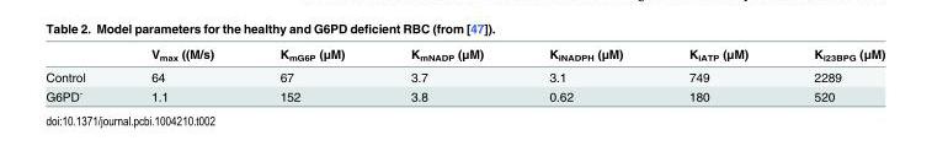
<table><thead><tr><td></td><td>V<sub>max</sub> ((M/s)</td><td>K<sub>mG6P</sub> (μM)</td><td>K<sub>mNADP</sub> (μM)</td><td>K<sub>iNADPH</sub> (μM)</td><td>K<sub>iATP</sub> (μM)</td><td>K<sub>i23BPG</sub> (μM)</td></tr></thead><tbody><tr><td>Control</td><td>64</td><td>67</td><td>3.7</td><td>3.1</td><td>749</td><td>2289</td></tr><tr><td>G6PD<sup>-</sup></td><td>1.1</td><td>152</td><td>3.8</td><td>0.62</td><td>180</td><td>520</td></tr></tbody></table>